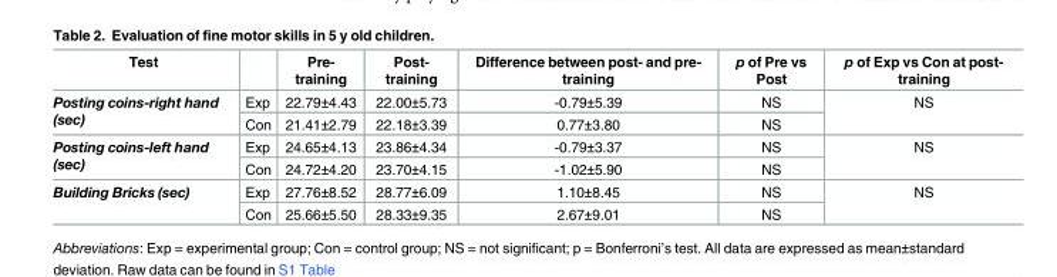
<table><thead><tr><td>Test</td><td></td><td>Pre- training</td><td>Post- training</td><td>Difference between post- and pre- training</td><td>p of Pre vs Post</td><td>p of Exp vs Con at post- training</td></tr></thead><tbody><tr><td rowspan="2">Posting coins-right hand (sec)</td><td>Exp</td><td>22.79±4.43</td><td>22.00±5.73</td><td>-0.79±5.39</td><td>NS</td><td rowspan="2">NS</td></tr><tr><td>Con</td><td>21.41±2.79</td><td>22.18±3.39</td><td>0.77±3.80</td><td>NS</td></tr><tr><td rowspan="2">Posting coins-left hand (sec)</td><td>Exp</td><td>24.65±4.13</td><td>23.86±4.34</td><td>-0.79±3.37</td><td>NS</td><td rowspan="2">NS</td></tr><tr><td>Con</td><td>24.72±4.20</td><td>23.70±4.15</td><td>-1.02±5.90</td><td>NS</td></tr><tr><td rowspan="2">Building Bricks (sec)</td><td>Exp</td><td>27.76±8.52</td><td>28.77±6.09</td><td>1.10±8.45</td><td>NS</td><td rowspan="2">NS</td></tr><tr><td>Con</td><td>25.66±5.50</td><td>28.33±9.35</td><td>2.67±9.01</td><td>NS</td></tr></tbody></table>